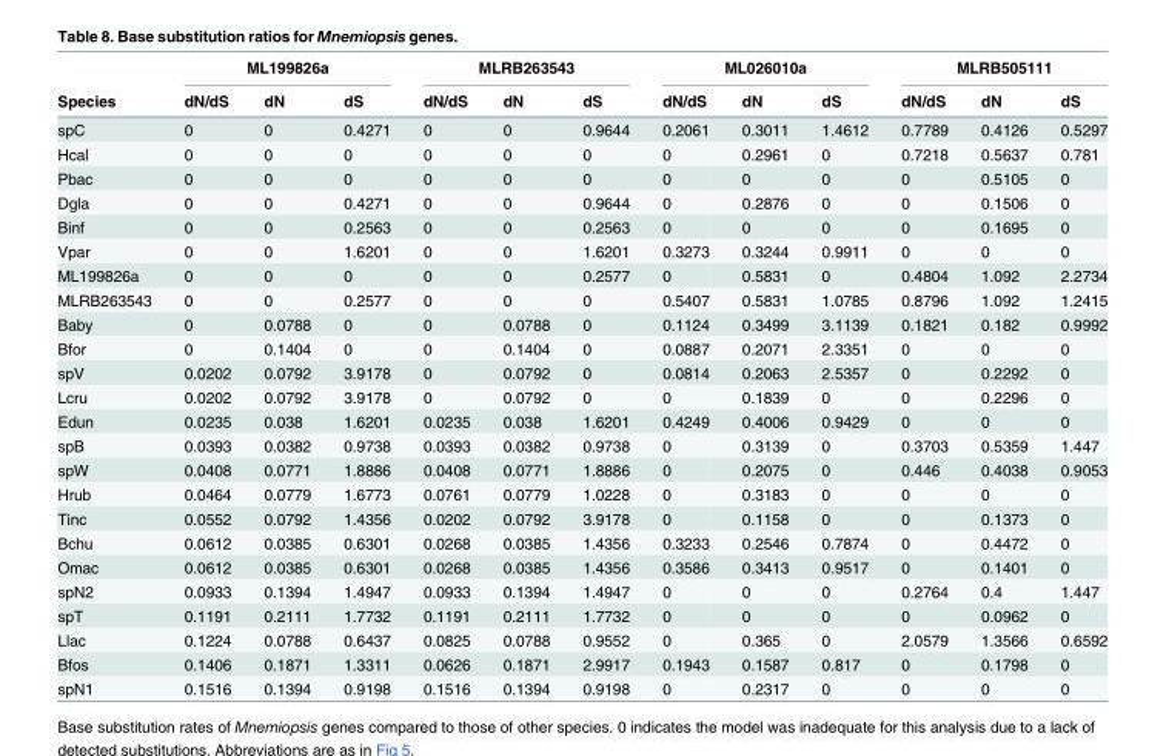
<table><thead><tr><td rowspan="2">Species</td><td colspan="3">ML199826a</td><td colspan="3">MLRB263543</td><td colspan="3">ML026010a</td><td colspan="3">MLRB505111</td></tr><tr><td>dN/dS</td><td>dN</td><td>dS</td><td>dN/dS</td><td>dN</td><td>dS</td><td>dN/dS</td><td>dN</td><td>dS</td><td>dN/dS</td><td>dN</td><td>dS</td></tr></thead><tbody><tr><td>spC</td><td>0</td><td>0</td><td>0.4271</td><td>0</td><td>0</td><td>0.9644</td><td>0.2061</td><td>0.3011</td><td>1.4612</td><td>0.7789</td><td>0.4126</td><td>0.5297</td></tr><tr><td>Hcal</td><td>0</td><td>0</td><td>0</td><td>0</td><td>0</td><td>0</td><td>0</td><td>0.2961</td><td>0</td><td>0.7218</td><td>0.5637</td><td>0.781</td></tr><tr><td>Pbac</td><td>0</td><td>0</td><td>0</td><td>0</td><td>0</td><td>0</td><td>0</td><td>0</td><td>0</td><td>0</td><td>0.5105</td><td>0</td></tr><tr><td>Dgla</td><td>0</td><td>0</td><td>0.4271</td><td>0</td><td>0</td><td>0.9644</td><td>0</td><td>0.2876</td><td>0</td><td>0</td><td>0.1506</td><td>0</td></tr><tr><td>Binf</td><td>0</td><td>0</td><td>0.2563</td><td>0</td><td>0</td><td>0.2563</td><td>0</td><td>0</td><td>0</td><td>0</td><td>0.1695</td><td>0</td></tr><tr><td>Vpar</td><td>0</td><td>0</td><td>1.6201</td><td>0</td><td>0</td><td>1.6201</td><td>0.3273</td><td>0.3244</td><td>0.9911</td><td>0</td><td>0</td><td>0</td></tr><tr><td>ML199826a</td><td>0</td><td>0</td><td>0</td><td>0</td><td>0</td><td>0.2577</td><td>0</td><td>0.5831</td><td>0</td><td>0.4804</td><td>1.092</td><td>2.2734</td></tr><tr><td>MLRB263543</td><td>0</td><td>0</td><td>0.2577</td><td>0</td><td>0</td><td>0</td><td>0.5407</td><td>0.5831</td><td>1.0785</td><td>0.8796</td><td>1.092</td><td>1.2415</td></tr><tr><td>Baby</td><td>0</td><td>0.0788</td><td>0</td><td>0</td><td>0.0788</td><td>0</td><td>0.1124</td><td>0.3499</td><td>3.1139</td><td>0.1821</td><td>0.182</td><td>0.9992</td></tr><tr><td>Bfor</td><td>0</td><td>0.1404</td><td>0</td><td>0</td><td>0.1404</td><td>0</td><td>0.0887</td><td>0.2071</td><td>2.3351</td><td>0</td><td>0</td><td>0</td></tr><tr><td>spV</td><td>0.0202</td><td>0.0792</td><td>3.9178</td><td>0</td><td>0.0792</td><td>0</td><td>0.0814</td><td>0.2063</td><td>2.5357</td><td>0</td><td>0.2292</td><td>0</td></tr><tr><td>Lcru</td><td>0.0202</td><td>0.0792</td><td>3.9178</td><td>0</td><td>0.0792</td><td>0</td><td>0</td><td>0.1839</td><td>0</td><td>0</td><td>0.2296</td><td>0</td></tr><tr><td>Edun</td><td>0.0235</td><td>0.038</td><td>1.6201</td><td>0.0235</td><td>0.038</td><td>1.6201</td><td>0.4249</td><td>0.4006</td><td>0.9429</td><td>0</td><td>0</td><td>0</td></tr><tr><td>spB</td><td>0.0393</td><td>0.0382</td><td>0.9738</td><td>0.0393</td><td>0.0382</td><td>0.9738</td><td>0</td><td>0.3139</td><td>0</td><td>0.3703</td><td>0.5359</td><td>1.447</td></tr><tr><td>spW</td><td>0.0408</td><td>0.0771</td><td>1.8886</td><td>0.0408</td><td>0.0771</td><td>1.8886</td><td>0</td><td>0.2075</td><td>0</td><td>0.446</td><td>0.4038</td><td>0.9053</td></tr><tr><td>Hrub</td><td>0.0464</td><td>0.0779</td><td>1.6773</td><td>0.0761</td><td>0.0779</td><td>1.0228</td><td>0</td><td>0.3183</td><td>0</td><td>0</td><td>0</td><td>0</td></tr><tr><td>Tinc</td><td>0.0552</td><td>0.0792</td><td>1.4356</td><td>0.0202</td><td>0.0792</td><td>3.9178</td><td>0</td><td>0.1158</td><td>0</td><td>0</td><td>0.1373</td><td>0</td></tr><tr><td>Bchu</td><td>0.0612</td><td>0.0385</td><td>0.6301</td><td>0.0268</td><td>0.0385</td><td>1.4356</td><td>0.3233</td><td>0.2546</td><td>0.7874</td><td>0</td><td>0.4472</td><td>0</td></tr><tr><td>Omac</td><td>0.0612</td><td>0.0385</td><td>0.6301</td><td>0.0268</td><td>0.0385</td><td>1.4356</td><td>0.3586</td><td>0.3413</td><td>0.9517</td><td>0</td><td>0.1401</td><td>0</td></tr><tr><td>spN2</td><td>0.0933</td><td>0.1394</td><td>1.4947</td><td>0.0933</td><td>0.1394</td><td>1.4947</td><td>0</td><td>0</td><td>0</td><td>0.2764</td><td>0.4</td><td>1.447</td></tr><tr><td>spT</td><td>0.1191</td><td>0.2111</td><td>1.7732</td><td>0.1191</td><td>0.2111</td><td>1.7732</td><td>0</td><td>0</td><td>0</td><td>0</td><td>0.0962</td><td>0</td></tr><tr><td>Llac</td><td>0.1224</td><td>0.0788</td><td>0.6437</td><td>0.0825</td><td>0.0788</td><td>0.9552</td><td>0</td><td>0.365</td><td>0</td><td>2.0579</td><td>1.3566</td><td>0.6592</td></tr><tr><td>Bfos</td><td>0.1406</td><td>0.1871</td><td>1.3311</td><td>0.0626</td><td>0.1871</td><td>2.9917</td><td>0.1943</td><td>0.1587</td><td>0.817</td><td>0</td><td>0.1798</td><td>0</td></tr><tr><td>spN1</td><td>0.1516</td><td>0.1394</td><td>0.9198</td><td>0.1516</td><td>0.1394</td><td>0.9198</td><td>0</td><td>0.2317</td><td>0</td><td>0</td><td>0</td><td>0</td></tr></tbody></table>